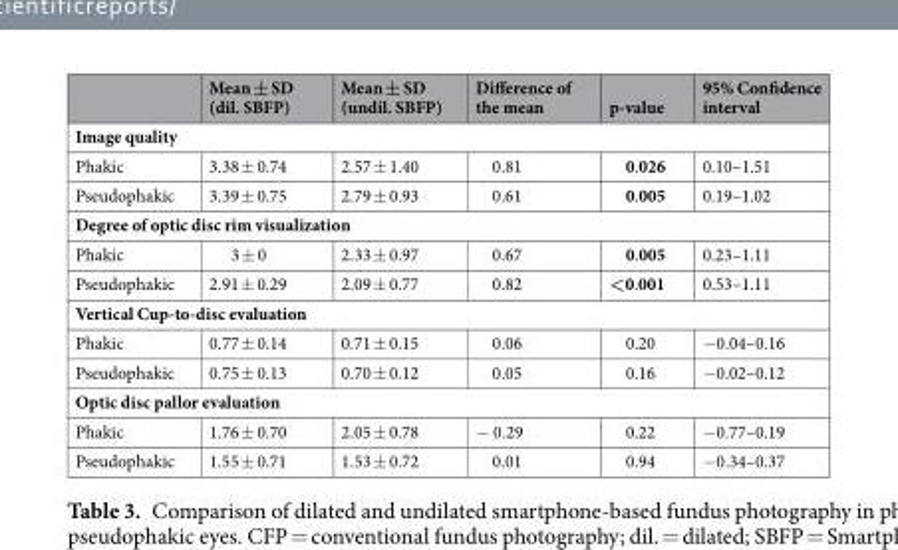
<table><thead><tr><td></td><td>Mean ± SD (dil. SBFP)</td><td>Mean ± SD (undil. SBFP)</td><td>Difference of the mean</td><td>p-value</td><td>95% Confidence interval</td></tr></thead><tbody><tr><td colspan="6">Image quality</td></tr><tr><td>Phakic</td><td>3.38 ± 0.74</td><td>2.57 ± 1.40</td><td>0.81</td><td>0.026</td><td>0.10–1.51</td></tr><tr><td>Pseudophakic</td><td>3.39 ± 0.75</td><td>2.79 ± 0.93</td><td>0.61</td><td>0.005</td><td>0.19–1.02</td></tr><tr><td colspan="6">Degree of optic disc rim visualization</td></tr><tr><td>Phakic</td><td>3 ± 0</td><td>2.33 ± 0.97</td><td>0.67</td><td>0.005</td><td>0.23–1.11</td></tr><tr><td>Pseudophakic</td><td>2.91 ± 0.29</td><td>2.09 ± 0.77</td><td>0.82</td><td>&lt;0.001</td><td>0.53–1.11</td></tr><tr><td colspan="6">Vertical Cup-to-disc evaluation</td></tr><tr><td>Phakic</td><td>0.77 ± 0.14</td><td>0.71 ± 0.15</td><td>0.06</td><td>0.20</td><td>−0.04–0.16</td></tr><tr><td>Pseudophakic</td><td>0.75 ± 0.13</td><td>0.70 ± 0.12</td><td>0.05</td><td>0.16</td><td>−0.02–0.12</td></tr><tr><td colspan="6">Optic disc pallor evaluation</td></tr><tr><td>Phakic</td><td>1.76 ± 0.70</td><td>2.05 ± 0.78</td><td>− 0.29</td><td>0.22</td><td>−0.77–0.19</td></tr><tr><td>Pseudophakic</td><td>1.55 ± 0.71</td><td>1.53 ± 0.72</td><td>0.01</td><td>0.94</td><td>−0.34–0.37</td></tr></tbody></table>